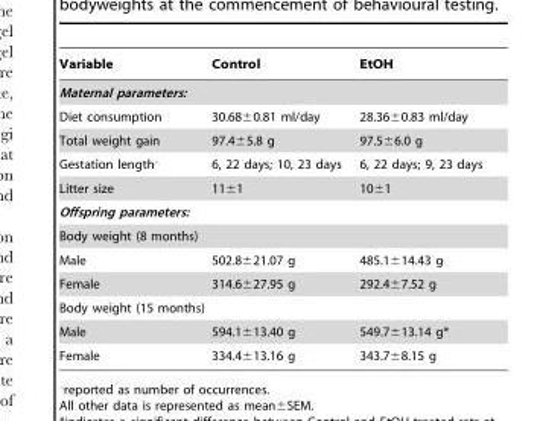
<table><thead><tr><td>Variable</td><td>Control</td><td>EtOH</td></tr></thead><tbody><tr><td colspan="3">Maternal parameters:</td></tr><tr><td>Diet consumption</td><td>30.68±0.81 ml/day</td><td>28.36±0.83 ml/day</td></tr><tr><td>Total weight gain</td><td>97.4±5.8 g</td><td>97.5±6.0 g</td></tr><tr><td>Gestation length‘</td><td>6, 22 days; 10, 23 days</td><td>6, 22 days; 9, 23 days</td></tr><tr><td>Litter size</td><td>11±1</td><td>10±1</td></tr><tr><td colspan="3">Offspring parameters:</td></tr><tr><td colspan="3">Body weight (8 months)</td></tr><tr><td>Male</td><td>502.8±21.07 g</td><td>485.1±14.43 g</td></tr><tr><td>Female</td><td>314.6±27.95 g</td><td>292.4±7.52 g</td></tr><tr><td colspan="3">Body weight (15 months)</td></tr><tr><td>Male</td><td>594.1±13.40 g</td><td>549.7±13.14 g*</td></tr><tr><td>Female</td><td>334.4±13.16 g</td><td>343.7±8.15 g</td></tr></tbody></table>